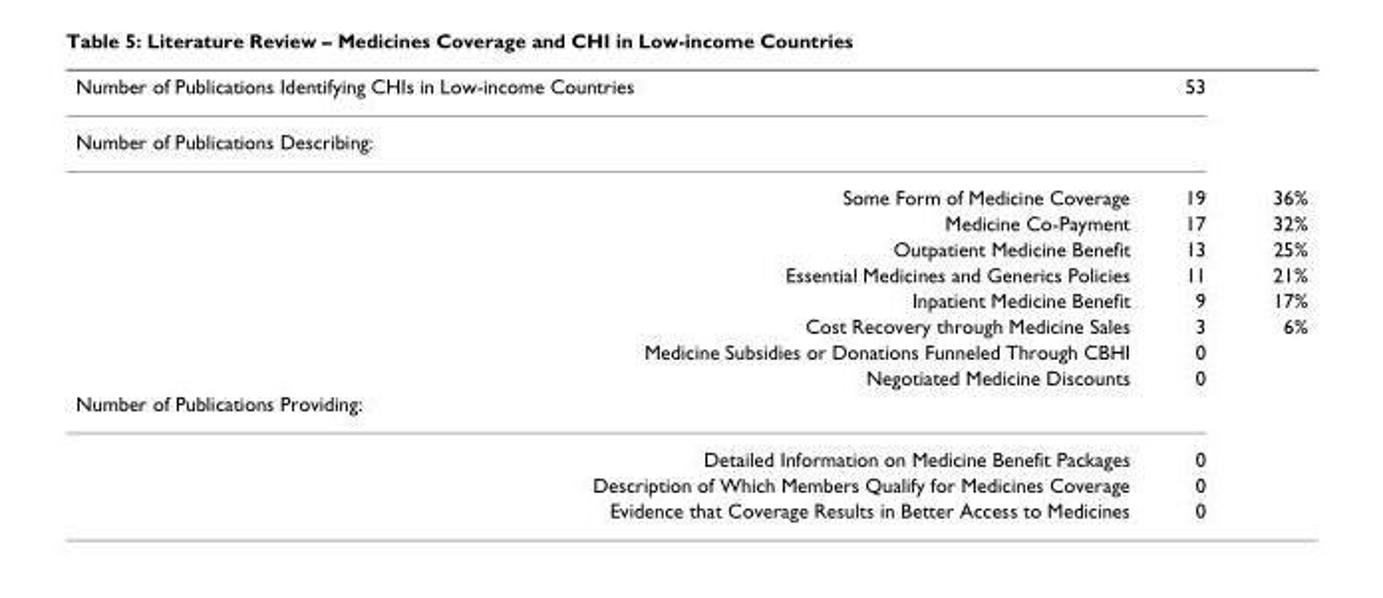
<table><tbody><tr><td>Number of Publications Identifying CHIs in Low-income Countries</td><td>53</td><td></td></tr><tr><td colspan="3">Number of Publications Describing:</td></tr><tr><td>Some Form of Medicine Coverage</td><td>19</td><td>36%</td></tr><tr><td>Medicine Co-Payment</td><td>17</td><td>32%</td></tr><tr><td>Outpatient Medicine Benefit</td><td>13</td><td>25%</td></tr><tr><td>Essential Medicines and Generics Policies</td><td>11</td><td>21%</td></tr><tr><td>Inpatient Medicine Benefit</td><td>9</td><td>17%</td></tr><tr><td>Cost Recovery through Medicine Sales</td><td>3</td><td>6%</td></tr><tr><td>Medicine Subsidies or Donations Funneled Through CBHI</td><td>0</td><td></td></tr><tr><td>Negotiated Medicine Discounts</td><td>0</td><td></td></tr><tr><td colspan="3">Number of Publications Providing:</td></tr><tr><td>Detailed Information on Medicine Benefit Packages</td><td>0</td><td></td></tr><tr><td>Description of Which Members Qualify for Medicines Coverage</td><td>0</td><td></td></tr><tr><td>Evidence that Coverage Results in Better Access to Medicines</td><td>0</td><td></td></tr></tbody></table>